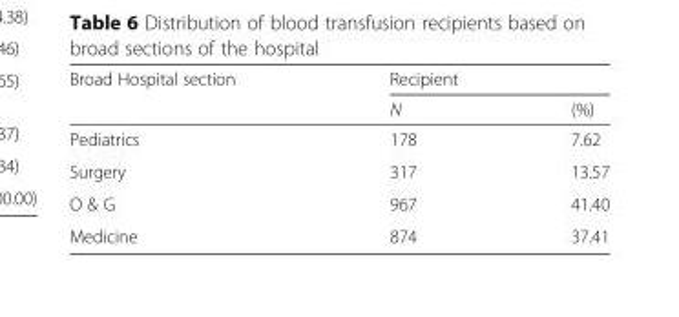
<table><thead><tr><td rowspan="2">Broad Hospital section</td><td colspan="2">Recipient</td></tr><tr><td>N</td><td>(%)</td></tr></thead><tbody><tr><td>Pediatrics</td><td>178</td><td>7.62</td></tr><tr><td>Surgery</td><td>317</td><td>13.57</td></tr><tr><td>O &amp; G</td><td>967</td><td>41.40</td></tr><tr><td>Medicine</td><td>874</td><td>37.41</td></tr></tbody></table>